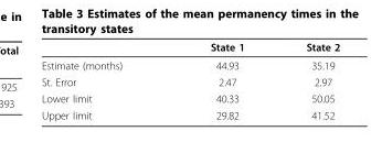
<table><thead><tr><td></td><td>State 1</td><td>State 2</td></tr></thead><tbody><tr><td>Estimate (months)</td><td>44.93</td><td>35.19</td></tr><tr><td>St. Error</td><td>2.47</td><td>2.97</td></tr><tr><td>Lower limit</td><td>40.33</td><td>50.05</td></tr><tr><td>Upper limit</td><td>29.82</td><td>41.52</td></tr></tbody></table>